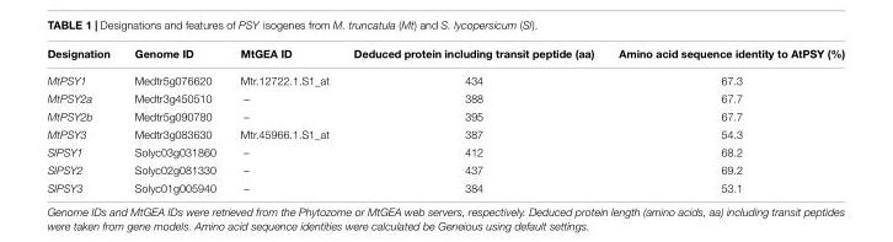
<table><thead><tr><td>Designation</td><td>Genome ID</td><td>MtGEA ID</td><td>Deduced protein including transit peptide (aa)</td><td>Amino acid sequence identity to AtPSY (%)</td></tr></thead><tbody><tr><td>MtPSY1</td><td>Medtr5g076620</td><td>Mtr.12722.1.S1_at</td><td>434</td><td>67.3</td></tr><tr><td>MtPSY2a</td><td>Medtr3g450510</td><td>–</td><td>388</td><td>67.7</td></tr><tr><td>MtPSY2b</td><td>Medtr5g090780</td><td>–</td><td>395</td><td>67.7</td></tr><tr><td>MtPSY3</td><td>Medtr3g083630</td><td>Mtr.45966.1.S1_at</td><td>387</td><td>54.3</td></tr><tr><td>SlPSY1</td><td>Solyc03g031860</td><td>–</td><td>412</td><td>68.2</td></tr><tr><td>SlPSY2</td><td>Solyc02g081330</td><td>–</td><td>437</td><td>69.2</td></tr><tr><td>SlPSY3</td><td>Solyc01g005940</td><td>–</td><td>384</td><td>53.1</td></tr></tbody></table>